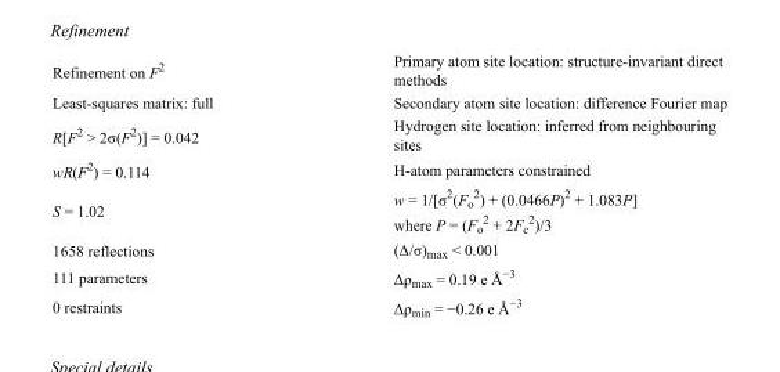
<table><tbody><tr><td>Refinement on F<sup>2</sup></td><td>Primary atom site location: structure-invariant direct methods</td></tr><tr><td>Least-squares matrix: full</td><td>Secondary atom site location: difference Fourier map</td></tr><tr><td>R[F<sup>2</sup> &gt; 2σ(F<sup>2</sup>)] = 0.042</td><td>Hydrogen site location: inferred from neighbouring sites</td></tr><tr><td>wR(F<sup>2</sup>) = 0.114</td><td>H-atom parameters constrained</td></tr><tr><td>S = 1.02</td><td>w = 1/[σ<sup>2</sup>(F<sub>o</sub> <sup>2</sup>) + (0.0466P)<sup>2</sup> + 1.083P] where P = (F<sub>o</sub> <sup>2</sup> + 2F<sub>c</sub> <sup>2</sup>)/3</td></tr><tr><td>1658 reflections</td><td>(Δ/σ)<sub>max</sub> &lt; 0.001</td></tr><tr><td>111 parameters</td><td>Δρ<sub>max</sub> = 0.19 e Å<sup>−3</sup></td></tr><tr><td>0 restraints</td><td>Δρ<sub>min</sub> = −0.26 e Å<sup>−3</sup></td></tr></tbody></table>